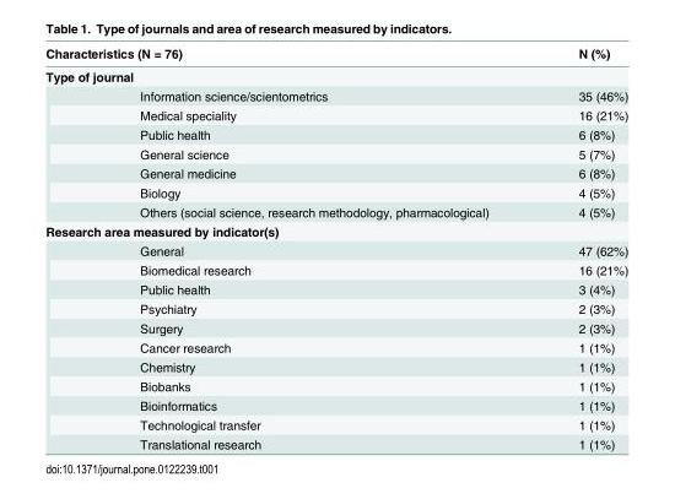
<table><thead><tr><td>Characteristics (N = 76)</td><td>N (%)</td></tr></thead><tbody><tr><td colspan="2">Type of journal</td></tr><tr><td>Information science/scientometrics</td><td>35 (46%)</td></tr><tr><td>Medical speciality</td><td>16 (21%)</td></tr><tr><td>Public health</td><td>6 (8%)</td></tr><tr><td>General science</td><td>5 (7%)</td></tr><tr><td>General medicine</td><td>6 (8%)</td></tr><tr><td>Biology</td><td>4 (5%)</td></tr><tr><td>Others (social science, research methodology, pharmacological)</td><td>4 (5%)</td></tr><tr><td colspan="2">Research area measured by indicator(s)</td></tr><tr><td>General</td><td>47 (62%)</td></tr><tr><td>Biomedical research</td><td>16 (21%)</td></tr><tr><td>Public health</td><td>3 (4%)</td></tr><tr><td>Psychiatry</td><td>2 (3%)</td></tr><tr><td>Surgery</td><td>2 (3%)</td></tr><tr><td>Cancer research</td><td>1 (1%)</td></tr><tr><td>Chemistry</td><td>1 (1%)</td></tr><tr><td>Biobanks</td><td>1 (1%)</td></tr><tr><td>Bioinformatics</td><td>1 (1%)</td></tr><tr><td>Technological transfer</td><td>1 (1%)</td></tr><tr><td>Translational research</td><td>1 (1%)</td></tr></tbody></table>